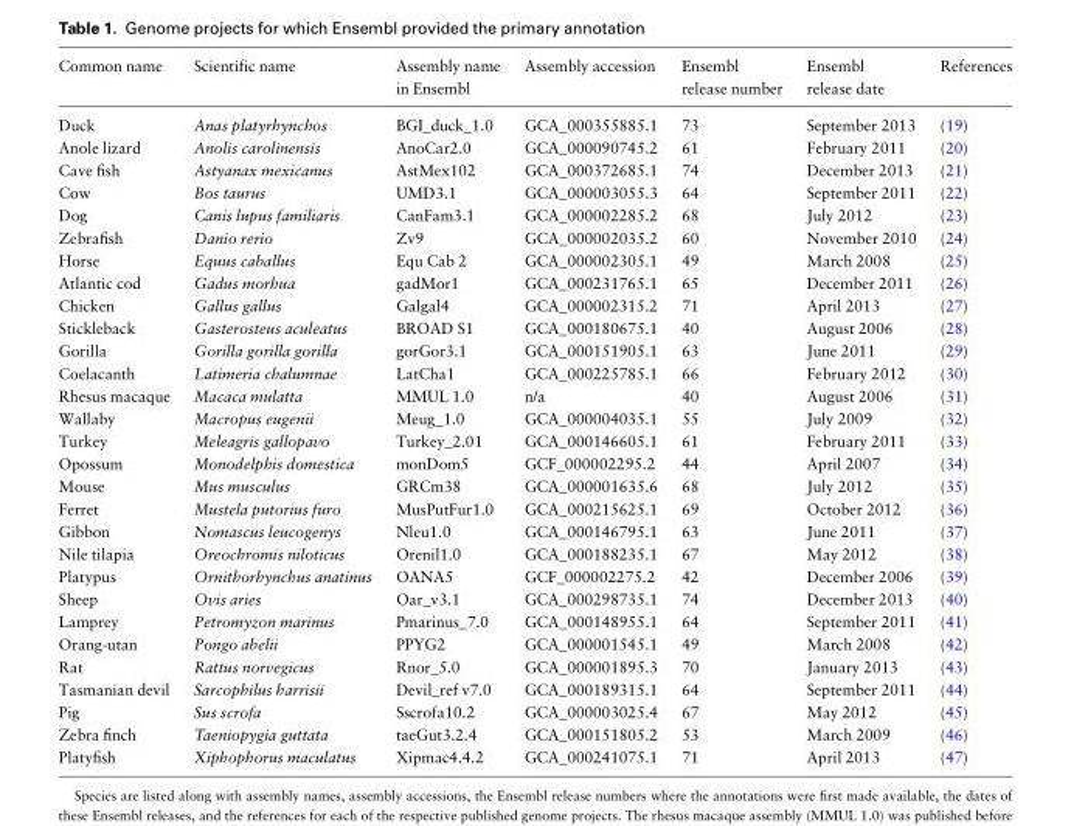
<table><thead><tr><td>Common name</td><td>Scientific name</td><td>Assembly name in Ensembl</td><td>Assembly accession</td><td>Ensembl release number</td><td>Ensembl release date</td><td>References</td></tr></thead><tbody><tr><td>Duck</td><td>Anas platyrhynchos</td><td>BGI_duck_1.0</td><td>GCA_000355885.1</td><td>73</td><td>September 2013</td><td>(19)</td></tr><tr><td>Anole lizard</td><td>Anolis carolinensis</td><td>AnoCar2.0</td><td>GCA_000090745.2</td><td>61</td><td>February 2011</td><td>(20)</td></tr><tr><td>Cave fish</td><td>Astyanax mexicanus</td><td>AstMex102</td><td>GCA_000372685.1</td><td>74</td><td>December 2013</td><td>(21)</td></tr><tr><td>Cow</td><td>Bos taurus</td><td>UMD3.1</td><td>GCA_000003055.3</td><td>64</td><td>September 2011</td><td>(22)</td></tr><tr><td>Dog</td><td>Canis lupus familiaris</td><td>CanFam3.1</td><td>GCA_000002285.2</td><td>68</td><td>July 2012</td><td>(23)</td></tr><tr><td>Zebrafish</td><td>Danio rerio</td><td>Zv9</td><td>GCA_000002035.2</td><td>60</td><td>November 2010</td><td>(24)</td></tr><tr><td>Horse</td><td>Equus caballus</td><td>Equ Cab 2</td><td>GCA_000002305.1</td><td>49</td><td>March 2008</td><td>(25)</td></tr><tr><td>Atlantic cod</td><td>Gadus morhua</td><td>gadMor1</td><td>GCA_000231765.1</td><td>65</td><td>December 2011</td><td>(26)</td></tr><tr><td>Chicken</td><td>Gallus gallus</td><td>Galgal4</td><td>GCA_000002315.2</td><td>71</td><td>April 2013</td><td>(27)</td></tr><tr><td>Stickleback</td><td>Gasterosteus aculeatus</td><td>BROAD S1</td><td>GCA_000180675.1</td><td>40</td><td>August 2006</td><td>(28)</td></tr><tr><td>Gorilla</td><td>Gorilla gorilla gorilla</td><td>gorGor3.1</td><td>GCA_000151905.1</td><td>63</td><td>June 2011</td><td>(29)</td></tr><tr><td>Coelacanth</td><td>Latimeria chalumnae</td><td>LatCha1</td><td>GCA_000225785.1</td><td>66</td><td>February 2012</td><td>(30)</td></tr><tr><td>Rhesus macaque</td><td>Macaca mulatta</td><td>MMUL 1.0</td><td>n/a</td><td>40</td><td>August 2006</td><td>(31)</td></tr><tr><td>Wallaby</td><td>Macropus eugenii</td><td>Meug_1.0</td><td>GCA_000004035.1</td><td>55</td><td>July 2009</td><td>(32)</td></tr><tr><td>Turkey</td><td>Meleagris gallopavo</td><td>Turkey_2.01</td><td>GCA_000146605.1</td><td>61</td><td>February 2011</td><td>(33)</td></tr><tr><td>Opossum</td><td>Monodelphis domestica</td><td>monDom5</td><td>GCF_000002295.2</td><td>44</td><td>April 2007</td><td>(34)</td></tr><tr><td>Mouse</td><td>Mus musculus</td><td>GRCm38</td><td>GCA_000001635.6</td><td>68</td><td>July 2012</td><td>(35)</td></tr><tr><td>Ferret</td><td>Mustela putorius furo</td><td>MusPutFur1.0</td><td>GCA_000215625.1</td><td>69</td><td>October 2012</td><td>(36)</td></tr><tr><td>Gibbon</td><td>Nomascus leucogenys</td><td>Nleu1.0</td><td>GCA_000146795.1</td><td>63</td><td>June 2011</td><td>(37)</td></tr><tr><td>Nile tilapia</td><td>Oreochromis niloticus</td><td>Orenil1.0</td><td>GCA_000188235.1</td><td>67</td><td>May 2012</td><td>(38)</td></tr><tr><td>Platypus</td><td>Ornithorhynchus anatinus</td><td>OANA5</td><td>GCF_000002275.2</td><td>42</td><td>December 2006</td><td>(39)</td></tr><tr><td>Sheep</td><td>Ovis aries</td><td>Oar_v3.1</td><td>GCA_000298735.1</td><td>74</td><td>December 2013</td><td>(40)</td></tr><tr><td>Lamprey</td><td>Petromyzon marinus</td><td>Pmarinus_7.0</td><td>GCA_000148955.1</td><td>64</td><td>September 2011</td><td>(41)</td></tr><tr><td>Orang-utan</td><td>Pongo abelii</td><td>PPYG2</td><td>GCA_000001545.1</td><td>49</td><td>March 2008</td><td>(42)</td></tr><tr><td>Rat</td><td>Rattus norvegicus</td><td>Rnor_5.0</td><td>GCA_000001895.3</td><td>70</td><td>January 2013</td><td>(43)</td></tr><tr><td>Tasmanian devil</td><td>Sarcophilus harrisii</td><td>Devil_ref v7.0</td><td>GCA_000189315.1</td><td>64</td><td>September 2011</td><td>(44)</td></tr><tr><td>Pig</td><td>Sus scrofa</td><td>Sscrofa10.2</td><td>GCA_000003025.4</td><td>67</td><td>May 2012</td><td>(45)</td></tr><tr><td>Zebra finch</td><td>Taeniopygia guttata</td><td>taeGut3.2.4</td><td>GCA_000151805.2</td><td>53</td><td>March 2009</td><td>(46)</td></tr><tr><td>Platyfish</td><td>Xiphophorus maculatus</td><td>Xipmac4.4.2</td><td>GCA_000241075.1</td><td>71</td><td>April 2013</td><td>(47)</td></tr></tbody></table>